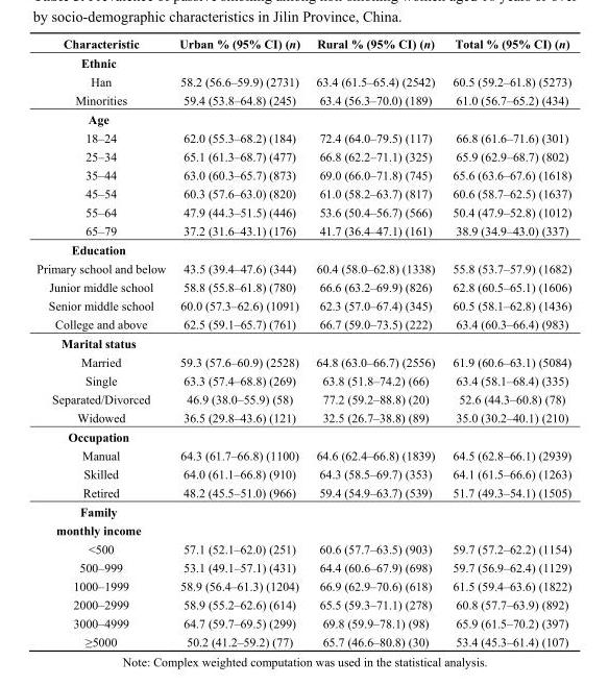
<table><thead><tr><td>Characteristic</td><td>Urban % (95% CI) (n)</td><td>Rural % (95% CI) (n)</td><td>Total % (95% CI) (n)</td></tr></thead><tbody><tr><td colspan="4">Ethnic</td></tr><tr><td>Han</td><td>58.2 (56.6–59.9) (2731)</td><td>63.4 (61.5–65.4) (2542)</td><td>60.5 (59.2–61.8) (5273)</td></tr><tr><td>Minorities</td><td>59.4 (53.8–64.8) (245)</td><td>63.4 (56.3–70.0) (189)</td><td>61.0 (56.7–65.2) (434)</td></tr><tr><td colspan="4">Age</td></tr><tr><td>18–24</td><td>62.0 (55.3–68.2) (184)</td><td>72.4 (64.0–79.5) (117)</td><td>66.8 (61.6–71.6) (301)</td></tr><tr><td>25–34</td><td>65.1 (61.3–68.7) (477)</td><td>66.8 (62.2–71.1) (325)</td><td>65.9 (62.9–68.7) (802)</td></tr><tr><td>35–44</td><td>63.0 (60.3–65.7) (873)</td><td>69.0 (66.0–71.8) (745)</td><td>65.6 (63.6–67.6) (1618)</td></tr><tr><td>45–54</td><td>60.3 (57.6–63.0) (820)</td><td>61.0 (58.2–63.7) (817)</td><td>60.6 (58.7–62.5) (1637)</td></tr><tr><td>55–64</td><td>47.9 (44.3–51.5) (446)</td><td>53.6 (50.4–56.7) (566)</td><td>50.4 (47.9–52.8) (1012)</td></tr><tr><td>65–79</td><td>37.2 (31.6–43.1) (176)</td><td>41.7 (36.4–47.1) (161)</td><td>38.9 (34.9–43.0) (337)</td></tr><tr><td colspan="4">Education</td></tr><tr><td>Primary school and below</td><td>43.5 (39.4–47.6) (344)</td><td>60.4 (58.0–62.8) (1338)</td><td>55.8 (53.7–57.9) (1682)</td></tr><tr><td>Junior middle school</td><td>58.8 (55.8–61.8) (780)</td><td>66.6 (63.2–69.9) (826)</td><td>62.8 (60.5–65.1) (1606)</td></tr><tr><td>Senior middle school</td><td>60.0 (57.3–62.6) (1091)</td><td>62.3 (57.0–67.4) (345)</td><td>60.5 (58.1–62.8) (1436)</td></tr><tr><td>College and above</td><td>62.5 (59.1–65.7) (761)</td><td>66.7 (59.0–73.5) (222)</td><td>63.4 (60.3–66.4) (983)</td></tr><tr><td colspan="4">Marital status</td></tr><tr><td>Married</td><td>59.3 (57.6–60.9) (2528)</td><td>64.8 (63.0–66.7) (2556)</td><td>61.9 (60.6–63.1) (5084)</td></tr><tr><td>Single</td><td>63.3 (57.4–68.8) (269)</td><td>63.8 (51.8–74.2) (66)</td><td>63.4 (58.1–68.4) (335)</td></tr><tr><td>Separated/Divorced</td><td>46.9 (38.0–55.9) (58)</td><td>77.2 (59.2–88.8) (20)</td><td>52.6 (44.3–60.8) (78)</td></tr><tr><td>Widowed</td><td>36.5 (29.8–43.6) (121)</td><td>32.5 (26.7–38.8) (89)</td><td>35.0 (30.2–40.1) (210)</td></tr><tr><td colspan="4">Occupation</td></tr><tr><td>Manual</td><td>64.3 (61.7–66.8) (1100)</td><td>64.6 (62.4–66.8) (1839)</td><td>64.5 (62.8–66.1) (2939)</td></tr><tr><td>Skilled</td><td>64.0 (61.1–66.8) (910)</td><td>64.3 (58.5–69.7) (353)</td><td>64.1 (61.5–66.6) (1263)</td></tr><tr><td>Retired</td><td>48.2 (45.5–51.0) (966)</td><td>59.4 (54.9–63.7) (539)</td><td>51.7 (49.3–54.1) (1505)</td></tr><tr><td colspan="4">Family monthly income</td></tr><tr><td>&lt;500</td><td>57.1 (52.1–62.0) (251)</td><td>60.6 (57.7–63.5) (903)</td><td>59.7 (57.2–62.2) (1154)</td></tr><tr><td>500–999</td><td>53.1 (49.1–57.1) (431)</td><td>64.4 (60.6–67.9) (698)</td><td>59.7 (56.9–62.4) (1129)</td></tr><tr><td>1000–1999</td><td>58.9 (56.4–61.3) (1204)</td><td>66.9 (62.9–70.6) (618)</td><td>61.5 (59.4–63.6) (1822)</td></tr><tr><td>2000–2999</td><td>58.9 (55.2–62.6) (614)</td><td>65.5 (59.3–71.1) (278)</td><td>60.8 (57.7–63.9) (892)</td></tr><tr><td>3000–4999</td><td>64.7 (59.7–69.5) (299)</td><td>69.8 (59.9–78.1) (98)</td><td>65.9 (61.5–70.2) (397)</td></tr><tr><td>≥5000</td><td>50.2 (41.2–59.2) (77)</td><td>65.7 (46.6–80.8) (30)</td><td>53.4 (45.3–61.4) (107)</td></tr></tbody></table>